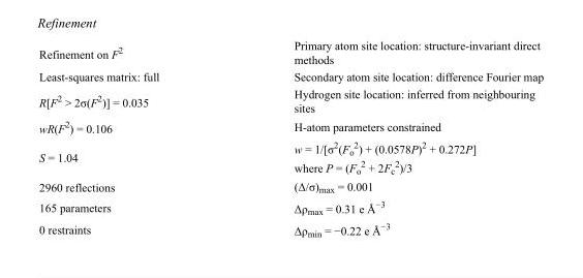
<table><tbody><tr><td>Refinement on F<sup>2</sup></td><td>Primary atom site location: structure-invariant direct methods</td></tr><tr><td>Least-squares matrix: full</td><td>Secondary atom site location: difference Fourier map</td></tr><tr><td>R[F<sup>2</sup> &gt; 2σ(F<sup>2</sup>)] = 0.035</td><td>Hydrogen site location: inferred from neighbouring sites</td></tr><tr><td>wR(F<sup>2</sup>) = 0.106</td><td>H-atom parameters constrained</td></tr><tr><td>S = 1.04</td><td>w = 1/[σ<sup>2</sup>(F<sub>o</sub> <sup>2</sup>) + (0.0578P)<sup>2</sup> + 0.272P] where P = (F<sub>o</sub> <sup>2</sup> + 2F<sub>c</sub> <sup>2</sup>)/3</td></tr><tr><td>2960 reflections</td><td>(Δ/σ)<sub>max</sub> = 0.001</td></tr><tr><td>165 parameters</td><td>Δρ<sub>max</sub> = 0.31 e Å<sup>−3</sup></td></tr><tr><td>0 restraints</td><td>Δρ<sub>min</sub> = −0.22 e Å<sup>−3</sup></td></tr></tbody></table>